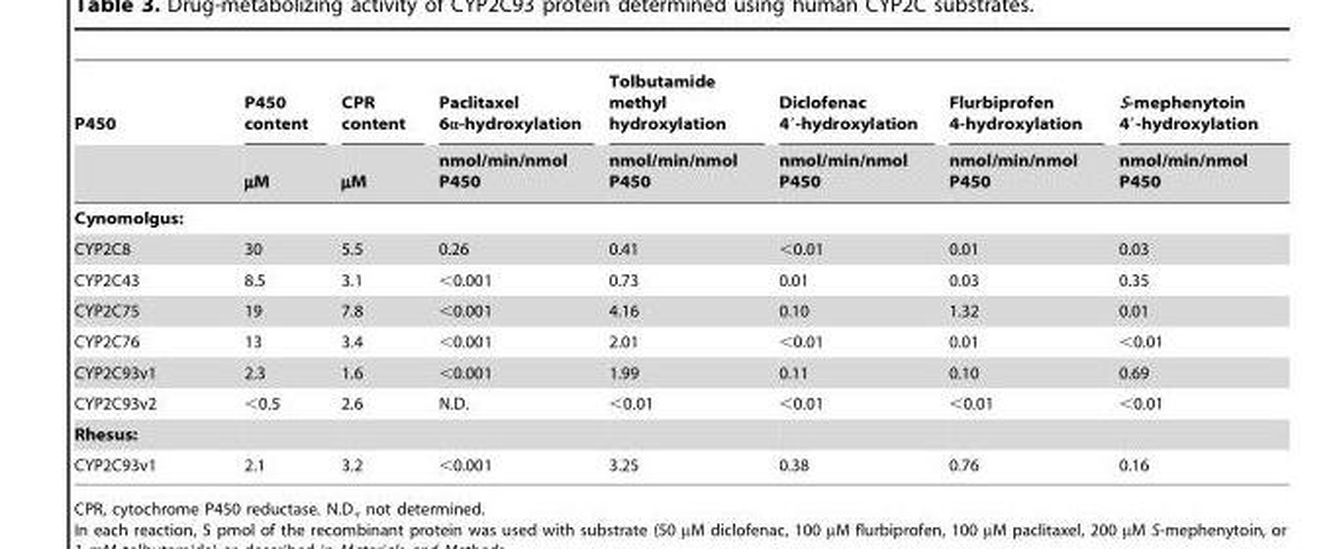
<table><thead><tr><td rowspan="2">P450</td><td rowspan="2">P450 content µM</td><td rowspan="2">CPR content µM</td><td rowspan="2">Paclitaxel 6α-hydroxylation nmol/min/nmol P450</td><td rowspan="2">Tolbutamide methyl hydroxylation nmol/min/nmol P450</td><td rowspan="2">Diclofenac 4′-hydroxylation nmol/min/nmol P450</td><td rowspan="2">Flurbiprofen 4-hydroxylation nmol/min/nmol P450</td><td rowspan="2">S-mephenytoin 4′-hydroxylation nmol/min/nmol P450</td></tr><tr></tr></thead><tbody><tr><td colspan="8">Cynomolgus:</td></tr><tr><td>CYP2C8</td><td>30</td><td>5.5</td><td>0.26</td><td>0.41</td><td>&lt;0.01</td><td>0.01</td><td>0.03</td></tr><tr><td>CYP2C43</td><td>8.5</td><td>3.1</td><td>&lt;0.001</td><td>0.73</td><td>0.01</td><td>0.03</td><td>0.35</td></tr><tr><td>CYP2C75</td><td>19</td><td>7.8</td><td>&lt;0.001</td><td>4.16</td><td>0.10</td><td>1.32</td><td>0.01</td></tr><tr><td>CYP2C76</td><td>13</td><td>3.4</td><td>&lt;0.001</td><td>2.01</td><td>&lt;0.01</td><td>0.01</td><td>&lt;0.01</td></tr><tr><td>CYP2C93v1</td><td>2.3</td><td>1.6</td><td>&lt;0.001</td><td>1.99</td><td>0.11</td><td>0.10</td><td>0.69</td></tr><tr><td>CYP2C93v2</td><td>&lt;0.5</td><td>2.6</td><td>N.D.</td><td>&lt;0.01</td><td>&lt;0.01</td><td>&lt;0.01</td><td>&lt;0.01</td></tr><tr><td colspan="8">Rhesus:</td></tr><tr><td>CYP2C93v1</td><td>2.1</td><td>3.2</td><td>&lt;0.001</td><td>3.25</td><td>0.38</td><td>0.76</td><td>0.16</td></tr></tbody></table>